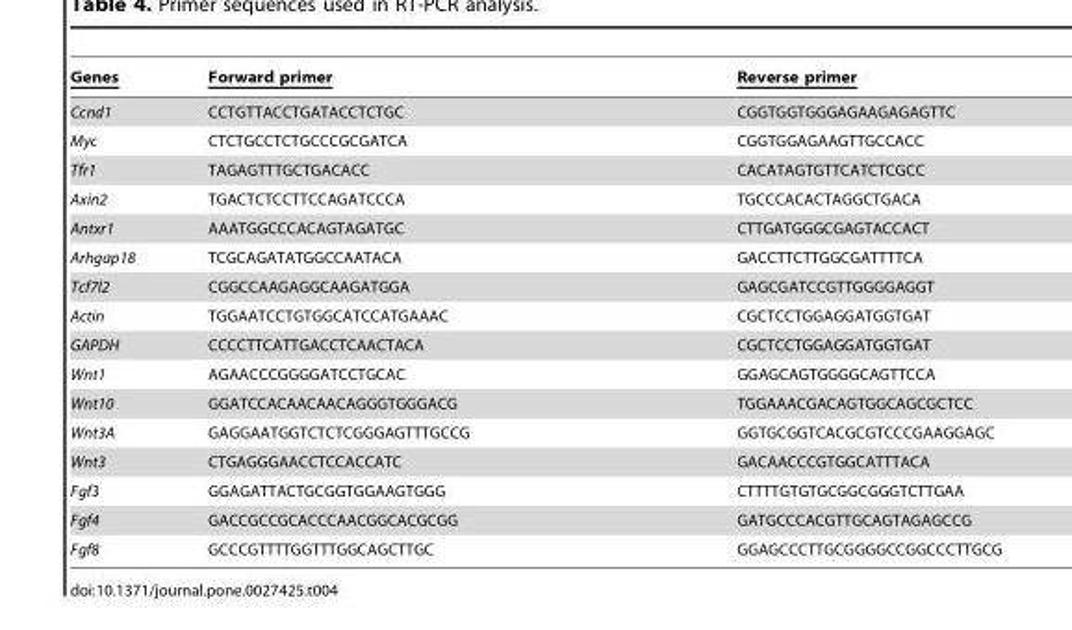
<table><thead><tr><td>Genes</td><td>Forward primer</td><td>Reverse primer</td></tr></thead><tbody><tr><td>Ccnd1</td><td>CCTGTTACCTGATACCTCTGC</td><td>CGGTGGTGGGAGAAGAGAGTTC</td></tr><tr><td>Myc</td><td>CTCTGCCTCTGCCCGCGATCA</td><td>CGGTGGAGAAGTTGCCACC</td></tr><tr><td>Tfr1</td><td>TAGAGTTTGCTGACACC</td><td>CACATAGTGTTCATCTCGCC</td></tr><tr><td>Axin2</td><td>TGACTCTCCTTCCAGATCCCA</td><td>TGCCCACACTAGGCTGACA</td></tr><tr><td>Antxr1</td><td>AAATGGCCCACAGTAGATGC</td><td>CTTGATGGGCGAGTACCACT</td></tr><tr><td>Arhgap18</td><td>TCGCAGATATGGCCAATACA</td><td>GACCTTCTTGGCGATTTTCA</td></tr><tr><td>Tcf7l2</td><td>CGGCCAAGAGGCAAGATGGA</td><td>GAGCGATCCGTTGGGGAGGT</td></tr><tr><td>Actin</td><td>TGGAATCCTGTGGCATCCATGAAAC</td><td>CGCTCCTGGAGGATGGTGAT</td></tr><tr><td>GAPDH</td><td>CCCCTTCATTGACCTCAACTACA</td><td>CGCTCCTGGAGGATGGTGAT</td></tr><tr><td>Wnt1</td><td>AGAACCCGGGGATCCTGCAC</td><td>GGAGCAGTGGGGCAGTTCCA</td></tr><tr><td>Wnt10</td><td>GGATCCACAACAACAGGGTGGGACG</td><td>TGGAAACGACAGTGGCAGCGCTCC</td></tr><tr><td>Wnt3A</td><td>GAGGAATGGTCTCTCGGGAGTTTGCCG</td><td>GGTGCGGTCACGCGTCCCGAAGGAGC</td></tr><tr><td>Wnt3</td><td>CTGAGGGAACCTCCACCATC</td><td>GACAACCCGTGGCATTTACA</td></tr><tr><td>Fgf3</td><td>GGAGATTACTGCGGTGGAAGTGGG</td><td>CTTTTGTGTGCGGCGGGTCTTGAA</td></tr><tr><td>Fgf4</td><td>GACCGCCGCACCCAACGGCACGCGG</td><td>GATGCCCACGTTGCAGTAGAGCCG</td></tr><tr><td>Fgf8</td><td>GCCCGTTTTGGTTTGGCAGCTTGC</td><td>GGAGCCCTTGCGGGGCCGGCCCTTGCG</td></tr></tbody></table>